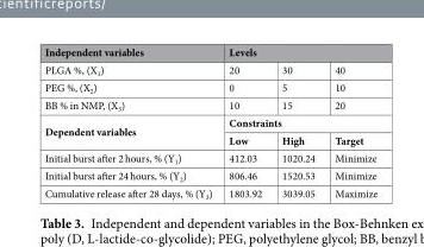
<table><thead><tr><td rowspan="2">Independent variables PLGA %, (X<sub>1</sub>)</td><td colspan="3">Levels</td></tr><tr><td>20</td><td>30</td><td>40</td></tr></thead><tbody><tr><td>PEG %, (X<sub>2</sub>)</td><td>0</td><td>5</td><td>10</td></tr><tr><td>BB % in NMP, (X<sub>3</sub>)</td><td>10</td><td>15</td><td>20</td></tr><tr><td rowspan="2">Dependent variables</td><td colspan="3">Constraints</td></tr><tr><td>Low</td><td>High</td><td>Target</td></tr><tr><td>Initial burst after 2 hours, % (Y<sub>1</sub>)</td><td>412.03</td><td>1020.24</td><td>Minimize</td></tr><tr><td>Initial burst after 24 hours, % (Y<sub>2</sub>)</td><td>806.46</td><td>1520.53</td><td>Minimize</td></tr><tr><td>Cumulative release after 28 days, % (Y<sub>3</sub>)</td><td>1803.92</td><td>3039.05</td><td>Maximize</td></tr></tbody></table>